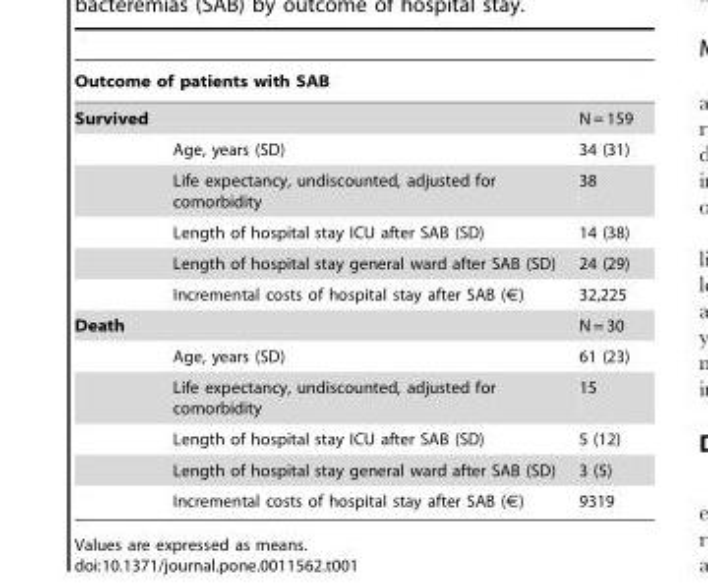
<table><thead><tr><td colspan="2">Outcome of patients with SAB</td><td rowspan="2">N = 159</td></tr><tr><td>Survived</td><td></td></tr></thead><tbody><tr><td></td><td>Age, years (SD)</td><td>34 (31)</td></tr><tr><td></td><td>Life expectancy, undiscounted, adjusted for comorbidity</td><td>38</td></tr><tr><td></td><td>Length of hospital stay ICU after SAB (SD)</td><td>14 (38)</td></tr><tr><td></td><td>Length of hospital stay general ward after SAB (SD)</td><td>24 (29)</td></tr><tr><td></td><td>Incremental costs of hospital stay after SAB (€)</td><td>32,225</td></tr><tr><td rowspan="6">Death</td><td></td><td>N = 30</td></tr><tr><td>Age, years (SD)</td><td>61 (23)</td></tr><tr><td>Life expectancy, undiscounted, adjusted for comorbidity</td><td>15</td></tr><tr><td>Length of hospital stay ICU after SAB (SD)</td><td>5 (12)</td></tr><tr><td>Length of hospital stay general ward after SAB (SD)</td><td>3 (5)</td></tr><tr><td>Incremental costs of hospital stay after SAB (€)</td><td>9319</td></tr></tbody></table>